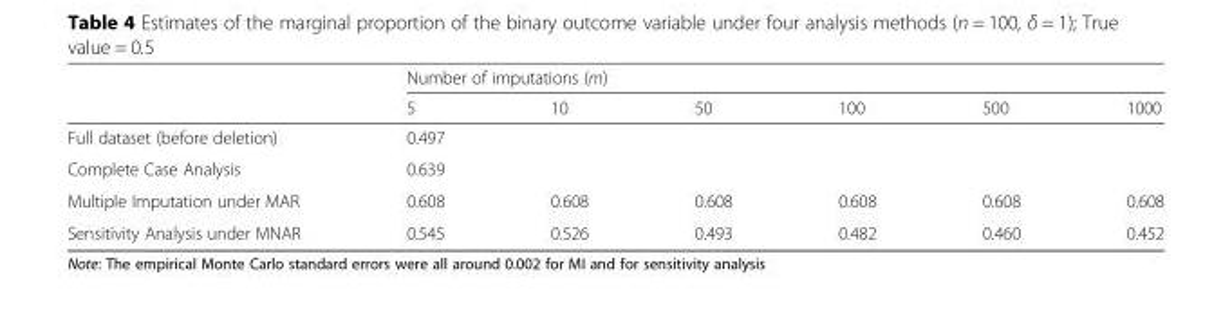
<table><thead><tr><td rowspan="2"></td><td colspan="6">Number of imputations (m)</td></tr><tr><td>5</td><td>10</td><td>50</td><td>100</td><td>500</td><td>1000</td></tr></thead><tbody><tr><td>Full dataset (before deletion)</td><td>0.497</td><td></td><td></td><td></td><td></td><td></td></tr><tr><td>Complete Case Analysis</td><td>0.639</td><td></td><td></td><td></td><td></td><td></td></tr><tr><td>Multiple Imputation under MAR</td><td>0.608</td><td>0.608</td><td>0.608</td><td>0.608</td><td>0.608</td><td>0.608</td></tr><tr><td>Sensitivity Analysis under MNAR</td><td>0.545</td><td>0.526</td><td>0.493</td><td>0.482</td><td>0.460</td><td>0.452</td></tr></tbody></table>